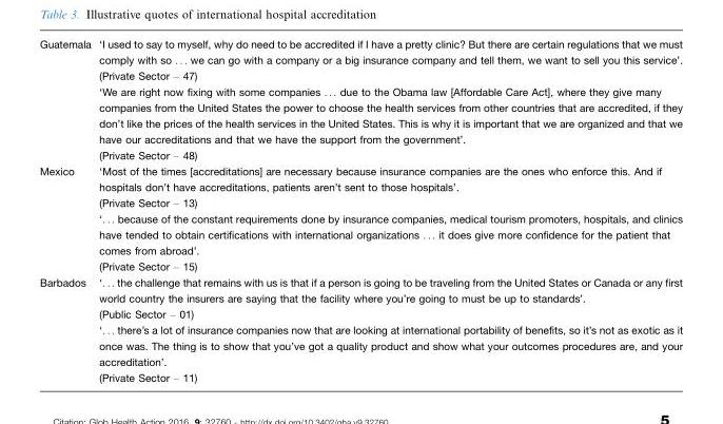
<table><tbody><tr><td>Guatemala</td><td>‘I used to say to myself, why do need to be accredited if I have a pretty clinic? But there are certain regulations that we must comply with so . . . we can go with a company or a big insurance company and tell them, we want to sell you this service’. (Private Sector � 47) ‘We are right now fixing with some companies . . . due to the Obama law [Affordable Care Act], where they give many companies from the United States the power to choose the health services from other countries that are accredited, if they don’t like the prices of the health services in the United States. This is why it is important that we are organized and that we have our accreditations and that we have the support from the government’. (Private Sector � 48)</td></tr><tr><td>Mexico</td><td>‘Most of the times [accreditations] are necessary because insurance companies are the ones who enforce this. And if hospitals don’t have accreditations, patients aren’t sent to those hospitals’. (Private Sector � 13) ‘. . . because of the constant requirements done by insurance companies, medical tourism promoters, hospitals, and clinics have tended to obtain certifications with international organizations . . . it does give more confidence for the patient that comes from abroad’. (Private Sector � 15)</td></tr><tr><td>Barbados</td><td>‘. . . the challenge that remains with us is that if a person is going to be traveling from the United States or Canada or any first world country the insurers are saying that the facility where you’re going to must be up to standards’. (Public Sector � 01) ‘. . . there’s a lot of insurance companies now that are looking at international portability of benefits, so it’s not as exotic as it once was. The thing is to show that you’ve got a quality product and show what your outcomes procedures are, and your accreditation’. (Private Sector � 11)</td></tr></tbody></table>